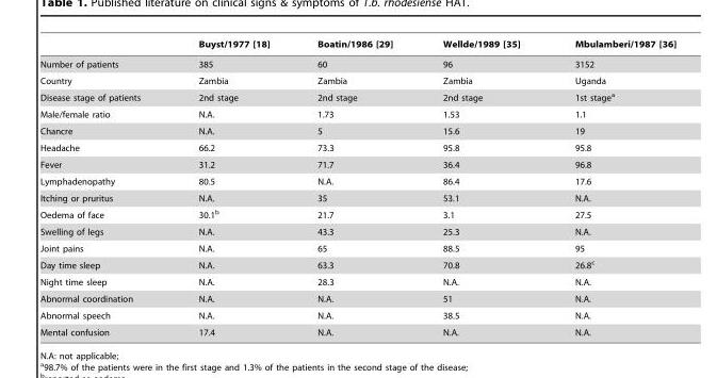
<table><thead><tr><td></td><td>Buyst/1977 [18]</td><td>Boatin/1986 [29]</td><td>Wellde/1989 [35]</td><td>Mbulamberi/1987 [36]</td></tr></thead><tbody><tr><td>Number of patients</td><td>385</td><td>60</td><td>96</td><td>3152</td></tr><tr><td>Country</td><td>Zambia</td><td>Zambia</td><td>Zambia</td><td>Uganda</td></tr><tr><td>Disease stage of patients</td><td>2nd stage</td><td>2nd stage</td><td>2nd stage</td><td>1st stage<sup>a</sup></td></tr><tr><td>Male/female ratio</td><td>N.A.</td><td>1.73</td><td>1.53</td><td>1.1</td></tr><tr><td>Chancre</td><td>N.A.</td><td>5</td><td>15.6</td><td>19</td></tr><tr><td>Headache</td><td>66.2</td><td>73.3</td><td>95.8</td><td>95.8</td></tr><tr><td>Fever</td><td>31.2</td><td>71.7</td><td>36.4</td><td>96.8</td></tr><tr><td>Lymphadenopathy</td><td>80.5</td><td>N.A.</td><td>86.4</td><td>17.6</td></tr><tr><td>Itching or pruritus</td><td>N.A.</td><td>35</td><td>53.1</td><td>N.A.</td></tr><tr><td>Oedema of face</td><td>30.1<sup>b</sup></td><td>21.7</td><td>3.1</td><td>27.5</td></tr><tr><td>Swelling of legs</td><td>N.A.</td><td>43.3</td><td>25.3</td><td>N.A.</td></tr><tr><td>Joint pains</td><td>N.A.</td><td>65</td><td>88.5</td><td>95</td></tr><tr><td>Day time sleep</td><td>N.A.</td><td>63.3</td><td>70.8</td><td>26.8<sup>c</sup></td></tr><tr><td>Night time sleep</td><td>N.A.</td><td>28.3</td><td>N.A.</td><td>N.A.</td></tr><tr><td>Abnormal coordination</td><td>N.A.</td><td>N.A.</td><td>51</td><td>N.A.</td></tr><tr><td>Abnormal speech</td><td>N.A.</td><td>N.A.</td><td>38.5</td><td>N.A.</td></tr><tr><td>Mental confusion</td><td>17.4</td><td>N.A.</td><td>N.A.</td><td>N.A.</td></tr></tbody></table>